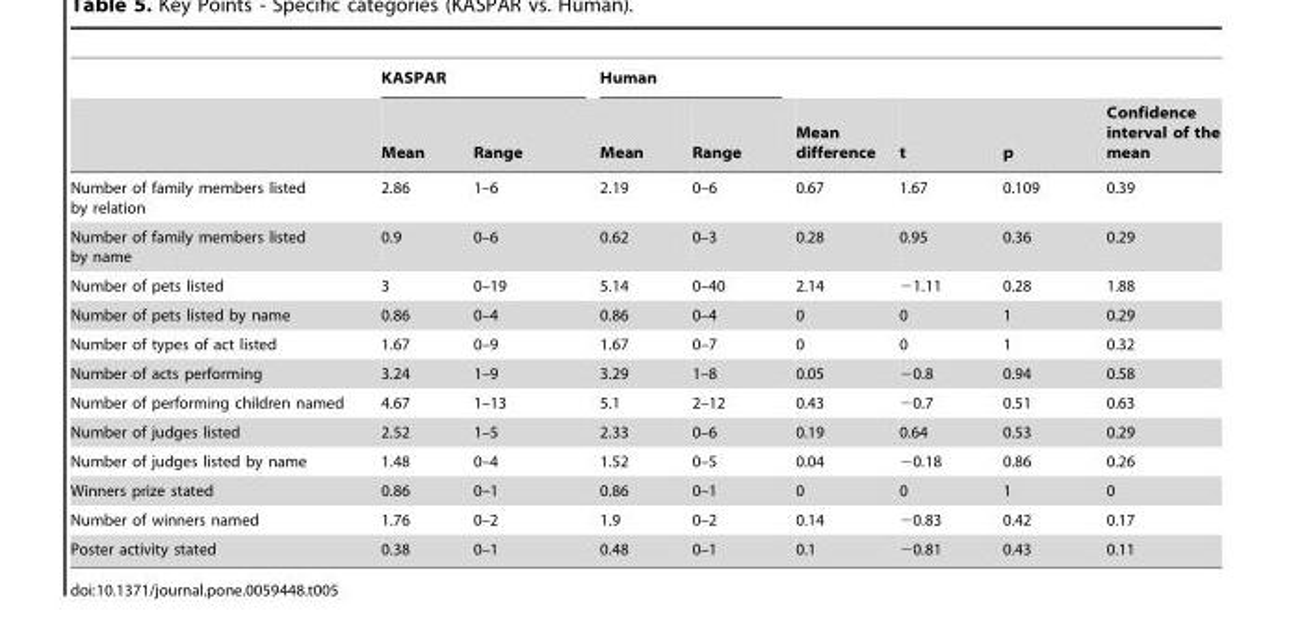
<table><thead><tr><td rowspan="2"></td><td colspan="2">KASPAR</td><td colspan="2">Human</td><td rowspan="2">Mean difference</td><td rowspan="2">t</td><td rowspan="2">p</td><td rowspan="2">Confidence interval of the mean</td></tr><tr><td>Mean</td><td>Range</td><td>Mean</td><td>Range</td></tr></thead><tbody><tr><td>Number of family members listed by relation</td><td>2.86</td><td>1–6</td><td>2.19</td><td>0–6</td><td>0.67</td><td>1.67</td><td>0.109</td><td>0.39</td></tr><tr><td>Number of family members listed by name</td><td>0.9</td><td>0–6</td><td>0.62</td><td>0–3</td><td>0.28</td><td>0.95</td><td>0.36</td><td>0.29</td></tr><tr><td>Number of pets listed</td><td>3</td><td>0–19</td><td>5.14</td><td>0–40</td><td>2.14</td><td>−1.11</td><td>0.28</td><td>1.88</td></tr><tr><td>Number of pets listed by name</td><td>0.86</td><td>0–4</td><td>0.86</td><td>0–4</td><td>0</td><td>0</td><td>1</td><td>0.29</td></tr><tr><td>Number of types of act listed</td><td>1.67</td><td>0–9</td><td>1.67</td><td>0–7</td><td>0</td><td>0</td><td>1</td><td>0.32</td></tr><tr><td>Number of acts performing</td><td>3.24</td><td>1–9</td><td>3.29</td><td>1–8</td><td>0.05</td><td>−0.8</td><td>0.94</td><td>0.58</td></tr><tr><td>Number of performing children named</td><td>4.67</td><td>1–13</td><td>5.1</td><td>2–12</td><td>0.43</td><td>−0.7</td><td>0.51</td><td>0.63</td></tr><tr><td>Number of judges listed</td><td>2.52</td><td>1–5</td><td>2.33</td><td>0–6</td><td>0.19</td><td>0.64</td><td>0.53</td><td>0.29</td></tr><tr><td>Number of judges listed by name</td><td>1.48</td><td>0–4</td><td>1.52</td><td>0–5</td><td>0.04</td><td>−0.18</td><td>0.86</td><td>0.26</td></tr><tr><td>Winners prize stated</td><td>0.86</td><td>0–1</td><td>0.86</td><td>0–1</td><td>0</td><td>0</td><td>1</td><td>0</td></tr><tr><td>Number of winners named</td><td>1.76</td><td>0–2</td><td>1.9</td><td>0–2</td><td>0.14</td><td>−0.83</td><td>0.42</td><td>0.17</td></tr><tr><td>Poster activity stated</td><td>0.38</td><td>0–1</td><td>0.48</td><td>0–1</td><td>0.1</td><td>−0.81</td><td>0.43</td><td>0.11</td></tr></tbody></table>